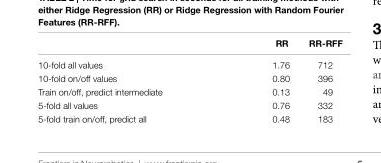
<table><thead><tr><td></td><td>rr</td><td>rr-rFF</td></tr></thead><tbody><tr><td>10-fold all values</td><td>1.76</td><td>712</td></tr><tr><td>10-fold on/off values</td><td>0.80</td><td>396</td></tr><tr><td>Train on/off, predict intermediate</td><td>0.13</td><td>49</td></tr><tr><td>5-fold all values</td><td>0.76</td><td>332</td></tr><tr><td>5-fold train on/off, predict all</td><td>0.48</td><td>183</td></tr></tbody></table>